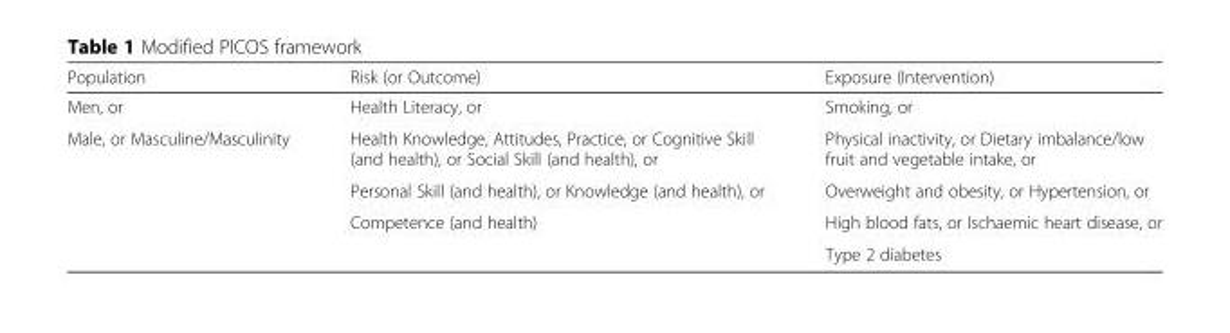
<table><thead><tr><td>Population</td><td>Risk (or Outcome)</td><td>Exposure (Intervention)</td></tr></thead><tbody><tr><td>Men, or</td><td>Health Literacy, or</td><td>Smoking, or</td></tr><tr><td rowspan="4">Male, or Masculine/Masculinity</td><td>Health Knowledge, Attitudes, Practice, or Cognitive Skill (and health), or Social Skill (and health), or</td><td>Physical inactivity, or Dietary imbalance/low fruit and vegetable intake, or</td></tr><tr><td>Personal Skill (and health), or Knowledge (and health), or</td><td>Overweight and obesity, or Hypertension, or</td></tr><tr><td rowspan="2">Competence (and health)</td><td>High blood fats, or Ischaemic heart disease, or</td></tr><tr><td>Type 2 diabetes</td></tr></tbody></table>